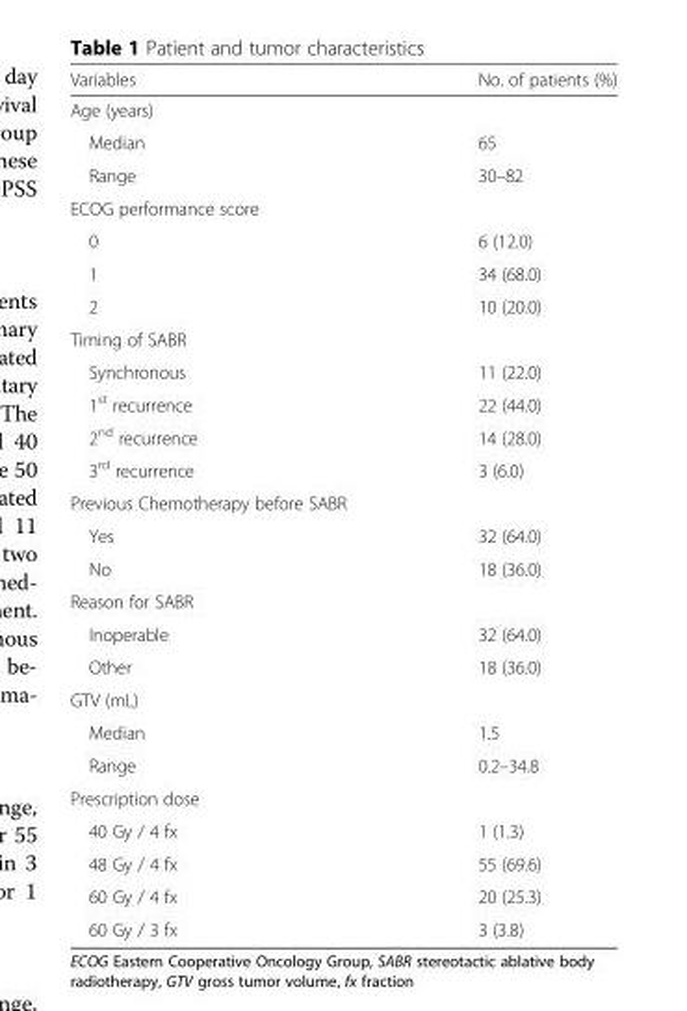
<table><thead><tr><td>Variables</td><td>No. of patients (%)</td></tr></thead><tbody><tr><td colspan="2">Age (years)</td></tr><tr><td>Median</td><td>65</td></tr><tr><td>Range</td><td>30–82</td></tr><tr><td colspan="2">ECOG performance score</td></tr><tr><td>0</td><td>6 (12.0)</td></tr><tr><td>1</td><td>34 (68.0)</td></tr><tr><td>2</td><td>10 (20.0)</td></tr><tr><td colspan="2">Timing of SABR</td></tr><tr><td>Synchronous</td><td>11 (22.0)</td></tr><tr><td>1<sup>st</sup> recurrence</td><td>22 (44.0)</td></tr><tr><td>2<sup>nd</sup> recurrence</td><td>14 (28.0)</td></tr><tr><td>3<sup>rd</sup> recurrence</td><td>3 (6.0)</td></tr><tr><td colspan="2">Previous Chemotherapy before SABR</td></tr><tr><td>Yes</td><td>32 (64.0)</td></tr><tr><td>No</td><td>18 (36.0)</td></tr><tr><td colspan="2">Reason for SABR</td></tr><tr><td>Inoperable</td><td>32 (64.0)</td></tr><tr><td>Other</td><td>18 (36.0)</td></tr><tr><td colspan="2">GTV (mL)</td></tr><tr><td>Median</td><td>1.5</td></tr><tr><td>Range</td><td>0.2–34.8</td></tr><tr><td colspan="2">Prescription dose</td></tr><tr><td>40 Gy / 4 fx</td><td>1 (1.3)</td></tr><tr><td>48 Gy / 4 fx</td><td>55 (69.6)</td></tr><tr><td>60 Gy / 4 fx</td><td>20 (25.3)</td></tr><tr><td>60 Gy / 3 fx</td><td>3 (3.8)</td></tr></tbody></table>